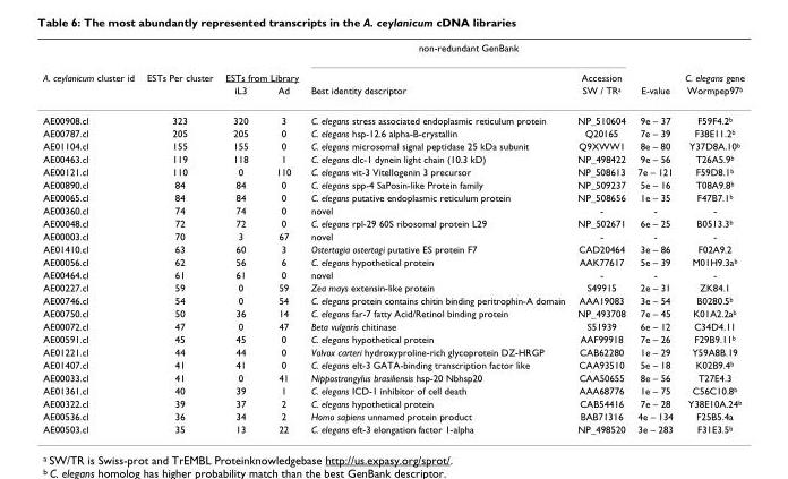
<table><thead><tr><td rowspan="3">A. ceylanicum cluster id</td><td rowspan="3">ESTs Per cluster</td><td></td><td></td><td colspan="2">non-redundant GenBank</td><td rowspan="3">E-value</td><td rowspan="3">C. elegans gene Wormpep97<sup>b</sup></td></tr><tr><td colspan="2">ESTs from Library</td><td rowspan="2">Best identity descriptor</td><td rowspan="2">Accession SW / TR<sup>a</sup></td></tr><tr><td>iL3</td><td>Ad</td></tr></thead><tbody><tr><td>AE00908.cl</td><td>323</td><td>320</td><td>3</td><td>C. elegans stress associated endoplasmic reticulum protein</td><td>NP_510604</td><td>9e – 37</td><td>F59F4.2<sup>b</sup></td></tr><tr><td>AE00787.cl</td><td>205</td><td>205</td><td>0</td><td>C. elegans hsp-12.6 alpha-B-crystallin</td><td>Q20165</td><td>7e – 39</td><td>F38E11.2<sup>b</sup></td></tr><tr><td>AE01104.cl</td><td>155</td><td>155</td><td>0</td><td>C. elegans microsomal signal peptidase 25 kDa subunit</td><td>Q9XWW1</td><td>8e – 80</td><td>Y37D8A.10<sup>b</sup></td></tr><tr><td>AE00463.cl</td><td>119</td><td>118</td><td>1</td><td>C. elegans dlc-1 dynein light chain (10.3 kD)</td><td>NP_498422</td><td>9e – 56</td><td>T26A5.9<sup>b</sup></td></tr><tr><td>AE00121.cl</td><td>110</td><td>0</td><td>110</td><td>C. elegans vit-3 Vitellogenin 3 precursor</td><td>NP_508613</td><td>7e – 121</td><td>F59D8.1<sup>b</sup></td></tr><tr><td>AE00890.cl</td><td>84</td><td>84</td><td>0</td><td>C. elegans spp-4 SaPosin-like Protein family</td><td>NP_509237</td><td>5e – 16</td><td>T08A9.8<sup>b</sup></td></tr><tr><td>AE00065.cl</td><td>84</td><td>84</td><td>0</td><td>C. elegans putative endoplasmic reticulum protein</td><td>NP_508656</td><td>1e – 35</td><td>F47B7.1<sup>b</sup></td></tr><tr><td>AE00360.cl</td><td>74</td><td>74</td><td>0</td><td>novel</td><td>-</td><td>-</td><td>-</td></tr><tr><td>AE00048.cl</td><td>72</td><td>72</td><td>0</td><td>C. elegans rpl-29 60S ribosomal protein L29</td><td>NP_502671</td><td>6e – 25</td><td>B0513.3<sup>b</sup></td></tr><tr><td>AE00003.cl</td><td>70</td><td>3</td><td>67</td><td>novel</td><td>-</td><td>-</td><td>-</td></tr><tr><td>AE01410.cl</td><td>63</td><td>60</td><td>3</td><td>Ostertagia ostertagi putative ES protein F7</td><td>CAD20464</td><td>3e – 86</td><td>F02A9.2</td></tr><tr><td>AE00056.cl</td><td>62</td><td>56</td><td>6</td><td>C. elegans hypothetical protein</td><td>AAK77617</td><td>5e – 39</td><td>M01H9.3a<sup>b</sup></td></tr><tr><td>AE00464.cl</td><td>61</td><td>61</td><td>0</td><td>novel</td><td>-</td><td>-</td><td>-</td></tr><tr><td>AE00227.cl</td><td>59</td><td>0</td><td>59</td><td>Zea mays extensin-like protein</td><td>S49915</td><td>2e – 31</td><td>ZK84.1</td></tr><tr><td>AE00746.cl</td><td>54</td><td>0</td><td>54</td><td>C. elegans protein contains chitin binding peritrophin-A domain</td><td>AAA19083</td><td>3e – 54</td><td>B0280.5<sup>b</sup></td></tr><tr><td>AE00750.cl</td><td>50</td><td>36</td><td>14</td><td>C. elegans far-7 fatty Acid/Retinol binding protein</td><td>NP_493708</td><td>7e – 45</td><td>K01A2.2a<sup>b</sup></td></tr><tr><td>AE00072.cl</td><td>47</td><td>0</td><td>47</td><td>Beta vulgaris chitinase</td><td>S51939</td><td>6e – 12</td><td>C34D4.11</td></tr><tr><td>AE00591.cl</td><td>45</td><td>45</td><td>0</td><td>C. elegans hypothetical protein</td><td>AAF99918</td><td>7e – 26</td><td>F29B9.11<sup>b</sup></td></tr><tr><td>AE01221.cl</td><td>44</td><td>44</td><td>0</td><td>Volvox carteri hydroxyproline-rich glycoprotein DZ-HRGP</td><td>CAB62280</td><td>1e – 29</td><td>Y59A8B.19</td></tr><tr><td>AE01407.cl</td><td>41</td><td>41</td><td>0</td><td>C. elegans elt-3 GATA-binding transcription factor like</td><td>CAA93510</td><td>5e – 18</td><td>K02B9.4<sup>b</sup></td></tr><tr><td>AE00033.cl</td><td>41</td><td>0</td><td>41</td><td>Nippostrongylus brasiliensis hsp-20 Nbhsp20</td><td>CAA50655</td><td>8e – 56</td><td>T27E4.3</td></tr><tr><td>AE01361.cl</td><td>40</td><td>39</td><td>1</td><td>C. elegans ICD-1 inhibitor of cell death</td><td>AAA68776</td><td>1e – 75</td><td>C56C10.8<sup>b</sup></td></tr><tr><td>AE00322.cl</td><td>39</td><td>37</td><td>2</td><td>C. elegans hypothetical protein</td><td>CAB54416</td><td>7e – 28</td><td>Y38E10A.24<sup>b</sup></td></tr><tr><td>AE00536.cl</td><td>36</td><td>34</td><td>2</td><td>Homo sapiens unnamed protein product</td><td>BAB71316</td><td>4e – 134</td><td>F25B5.4a</td></tr><tr><td>AE00503.cl</td><td>35</td><td>13</td><td>22</td><td>C. elegans eft-3 elongation factor 1-alpha</td><td>NP_498520</td><td>3e – 283</td><td>F31E3.5<sup>b</sup></td></tr></tbody></table>